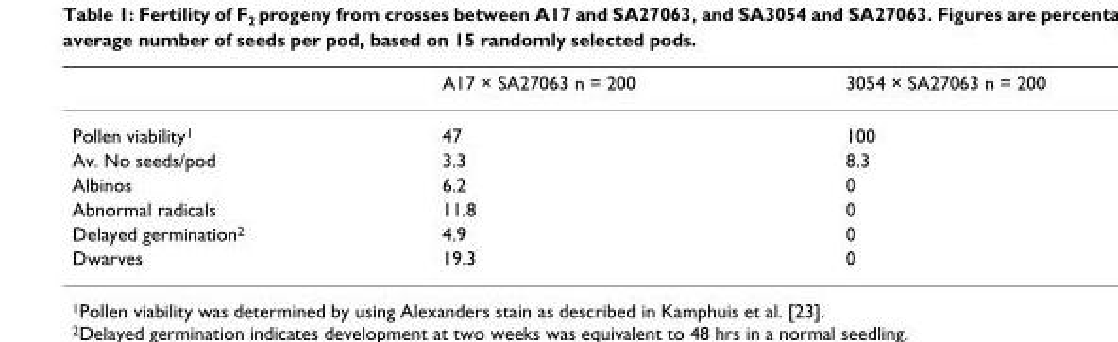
<table><thead><tr><td></td><td>A17 × SA27063 n = 200</td><td>3054 × SA27063 n = 200</td></tr></thead><tbody><tr><td>Pollen viability<sup>1</sup></td><td>47</td><td>100</td></tr><tr><td>Av. No seeds/pod</td><td>3.3</td><td>8.3</td></tr><tr><td>Albinos</td><td>6.2</td><td>0</td></tr><tr><td>Abnormal radicals</td><td>11.8</td><td>0</td></tr><tr><td>Delayed germination<sup>2</sup></td><td>4.9</td><td>0</td></tr><tr><td>Dwarves</td><td>19.3</td><td>0</td></tr></tbody></table>